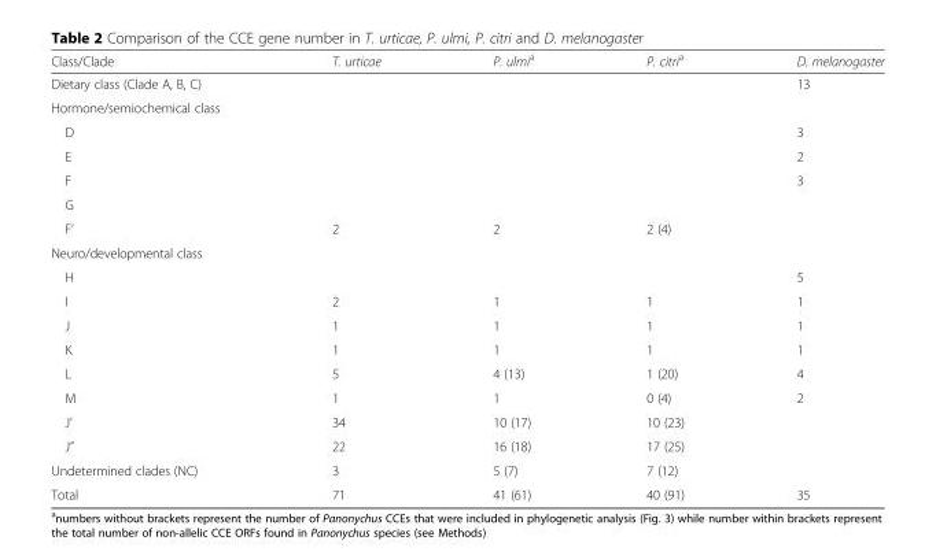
<table><thead><tr><td>Class/Clade</td><td>T. urticae</td><td>P. ulmi<sup>a</sup></td><td>P. citri<sup>a</sup></td><td>D. melanogaster</td></tr></thead><tbody><tr><td>Dietary class (Clade A, B, C)</td><td></td><td></td><td></td><td>13</td></tr><tr><td colspan="5">Hormone/semiochemical class</td></tr><tr><td>D</td><td></td><td></td><td></td><td>3</td></tr><tr><td>E</td><td></td><td></td><td></td><td>2</td></tr><tr><td>F</td><td></td><td></td><td></td><td>3</td></tr><tr><td colspan="5">G</td></tr><tr><td>F’</td><td>2</td><td>2</td><td>2 (4)</td><td></td></tr><tr><td colspan="5">Neuro/developmental class</td></tr><tr><td>H</td><td></td><td></td><td></td><td>5</td></tr><tr><td>I</td><td>2</td><td>1</td><td>1</td><td>1</td></tr><tr><td>J</td><td>1</td><td>1</td><td>1</td><td>1</td></tr><tr><td>K</td><td>1</td><td>1</td><td>1</td><td>1</td></tr><tr><td>L</td><td>5</td><td>4 (13)</td><td>1 (20)</td><td>4</td></tr><tr><td>M</td><td>1</td><td>1</td><td>0 (4)</td><td>2</td></tr><tr><td>J’</td><td>34</td><td>10 (17)</td><td>10 (23)</td><td></td></tr><tr><td>J”</td><td>22</td><td>16 (18)</td><td>17 (25)</td><td></td></tr><tr><td>Undetermined clades (NC)</td><td>3</td><td>5 (7)</td><td>7 (12)</td><td></td></tr><tr><td>Total</td><td>71</td><td>41 (61)</td><td>40 (91)</td><td>35</td></tr></tbody></table>